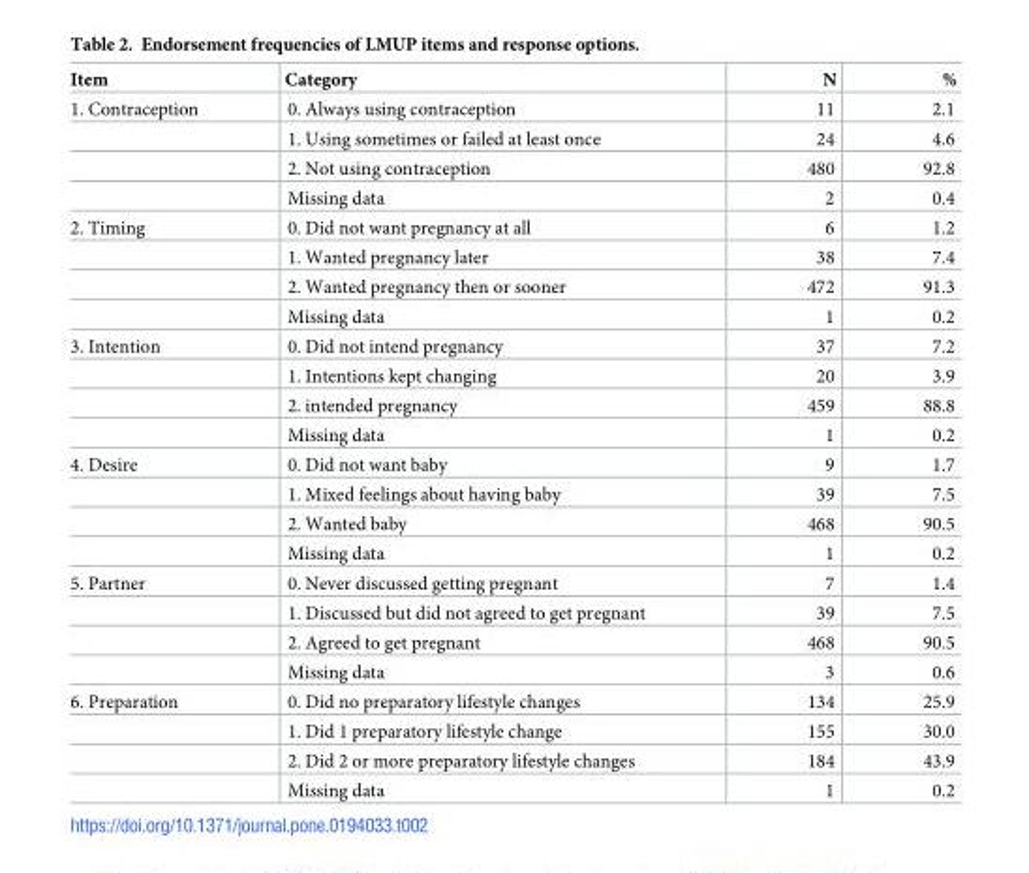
<table><thead><tr><td>Item</td><td>Category</td><td>N</td><td>%</td></tr></thead><tbody><tr><td rowspan="4">1. Contraception</td><td>0. Always using contraception</td><td>11</td><td>2.1</td></tr><tr><td>1. Using sometimes or failed at least once</td><td>24</td><td>4.6</td></tr><tr><td>2. Not using contraception</td><td>480</td><td>92.8</td></tr><tr><td>Missing data</td><td>2</td><td>0.4</td></tr><tr><td rowspan="4">2. Timing</td><td>0. Did not want pregnancy at all</td><td>6</td><td>1.2</td></tr><tr><td>1. Wanted pregnancy later</td><td>38</td><td>7.4</td></tr><tr><td>2. Wanted pregnancy then or sooner</td><td>472</td><td>91.3</td></tr><tr><td>Missing data</td><td>1</td><td>0.2</td></tr><tr><td rowspan="4">3. Intention</td><td>0. Did not intend pregnancy</td><td>37</td><td>7.2</td></tr><tr><td>1. Intentions kept changing</td><td>20</td><td>3.9</td></tr><tr><td>2. intended pregnancy</td><td>459</td><td>88.8</td></tr><tr><td>Missing data</td><td>1</td><td>0.2</td></tr><tr><td rowspan="4">4. Desire</td><td>0. Did not want baby</td><td>9</td><td>1.7</td></tr><tr><td>1. Mixed feelings about having baby</td><td>39</td><td>7.5</td></tr><tr><td>2. Wanted baby</td><td>468</td><td>90.5</td></tr><tr><td>Missing data</td><td>1</td><td>0.2</td></tr><tr><td rowspan="4">5. Partner</td><td>0. Never discussed getting pregnant</td><td>7</td><td>1.4</td></tr><tr><td>1. Discussed but did not agreed to get pregnant</td><td>39</td><td>7.5</td></tr><tr><td>2. Agreed to get pregnant</td><td>468</td><td>90.5</td></tr><tr><td>Missing data</td><td>3</td><td>0.6</td></tr><tr><td rowspan="4">6. Preparation</td><td>0. Did no preparatory lifestyle changes</td><td>134</td><td>25.9</td></tr><tr><td>1. Did 1 preparatory lifestyle change</td><td>155</td><td>30.0</td></tr><tr><td>2. Did 2 or more preparatory lifestyle changes</td><td>184</td><td>43.9</td></tr><tr><td>Missing data</td><td>1</td><td>0.2</td></tr></tbody></table>